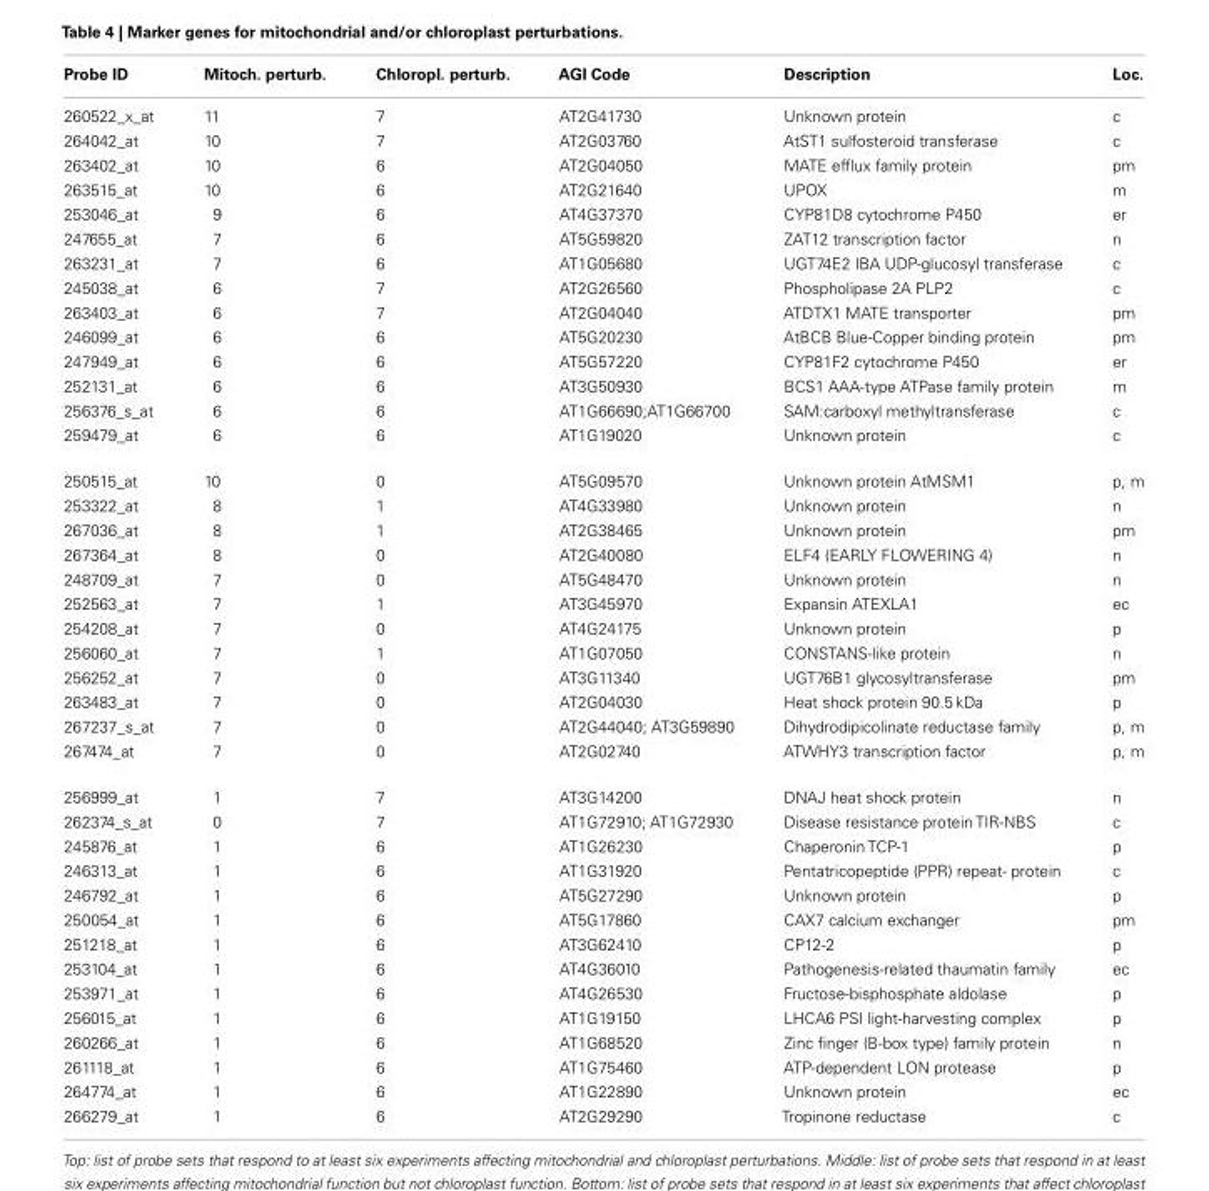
<table><thead><tr><td>Probe ID</td><td>Mitoch. perturb.</td><td>Chloropl. perturb.</td><td>AGI Code</td><td>Description</td><td>Loc.</td></tr></thead><tbody><tr><td>260522_x_at</td><td>11</td><td>7</td><td>AT2G41730</td><td>Unknown protein</td><td>c</td></tr><tr><td>264042_at</td><td>10</td><td>7</td><td>AT2G03760</td><td>AtST1 sulfosteroid transferase</td><td>c</td></tr><tr><td>263402_at</td><td>10</td><td>6</td><td>AT2G04050</td><td>MATE efflux family protein</td><td>pm</td></tr><tr><td>263515_at</td><td>10</td><td>6</td><td>AT2G21640</td><td>UPOX</td><td>m</td></tr><tr><td>253046_at</td><td>9</td><td>6</td><td>AT4G37370</td><td>CYP81D8 cytochrome P450</td><td>er</td></tr><tr><td>247655_at</td><td>7</td><td>6</td><td>AT5G59820</td><td>ZAT12 transcription factor</td><td>n</td></tr><tr><td>263231_at</td><td>7</td><td>6</td><td>AT1G05680</td><td>UGT74E2 IBA UDP-glucosyl transferase</td><td>c</td></tr><tr><td>245038_at</td><td>6</td><td>7</td><td>AT2G26560</td><td>Phospholipase 2A PLP2</td><td>c</td></tr><tr><td>263403_at</td><td>6</td><td>7</td><td>AT2G04040</td><td>ATDTX1 MATE transporter</td><td>pm</td></tr><tr><td>246099_at</td><td>6</td><td>6</td><td>AT5G20230</td><td>AtBCB Blue-Copper binding protein</td><td>pm</td></tr><tr><td>247949_at</td><td>6</td><td>6</td><td>AT5G57220</td><td>CYP81F2 cytochrome P450</td><td>er</td></tr><tr><td>252131_at</td><td>6</td><td>6</td><td>AT3G50930</td><td>BCS1 AAA-type ATPase family protein</td><td>m</td></tr><tr><td>256376_s_at</td><td>6</td><td>6</td><td>AT1G66690;AT1G66700</td><td>SAM:carboxyl methyltransferase</td><td>c</td></tr><tr><td>259479_at</td><td>6</td><td>6</td><td>AT1G19020</td><td>Unknown protein</td><td>c</td></tr><tr><td>250515_at</td><td>10</td><td>0</td><td>AT5G09570</td><td>Unknown protein AtMSM1</td><td>p, m</td></tr><tr><td>253322_at</td><td>8</td><td>1</td><td>AT4G33980</td><td>Unknown protein</td><td>n</td></tr><tr><td>267036_at</td><td>8</td><td>1</td><td>AT2G38465</td><td>Unknown protein</td><td>pm</td></tr><tr><td>267364_at</td><td>8</td><td>0</td><td>AT2G40080</td><td>ELF4 (EARLY FLOWERING 4)</td><td>n</td></tr><tr><td>248709_at</td><td>7</td><td>0</td><td>AT5G48470</td><td>Unknown protein</td><td>n</td></tr><tr><td>252563_at</td><td>7</td><td>1</td><td>AT3G45970</td><td>Expansin ATEXLA1</td><td>ec</td></tr><tr><td>254208_at</td><td>7</td><td>0</td><td>AT4G24175</td><td>Unknown protein</td><td>p</td></tr><tr><td>256060_at</td><td>7</td><td>1</td><td>AT1G07050</td><td>CONSTANS-like protein</td><td>n</td></tr><tr><td>256252_at</td><td>7</td><td>0</td><td>AT3G11340</td><td>UGT76B1 glycosyltransferase</td><td>pm</td></tr><tr><td>263483_at</td><td>7</td><td>0</td><td>AT2G04030</td><td>Heat shock protein 90.5 kDa</td><td>p</td></tr><tr><td>267237_s_at</td><td>7</td><td>0</td><td>AT2G44040; AT3G59890</td><td>Dihydrodipicolinate reductase family</td><td>p, m</td></tr><tr><td>267474_at</td><td>7</td><td>0</td><td>AT2G02740</td><td>ATWHY3 transcription factor</td><td>p, m</td></tr><tr><td>256999_at</td><td>1</td><td>7</td><td>AT3G14200</td><td>DNAJ heat shock protein</td><td>n</td></tr><tr><td>262374_s_at</td><td>0</td><td>7</td><td>AT1G72910; AT1G72930</td><td>Disease resistance protein TIR-NBS</td><td>c</td></tr><tr><td>245876_at</td><td>1</td><td>6</td><td>AT1G26230</td><td>Chaperonin TCP-1</td><td>p</td></tr><tr><td>246313_at</td><td>1</td><td>6</td><td>AT1G31920</td><td>Pentatricopeptide (PPR) repeat- protein</td><td>c</td></tr><tr><td>246792_at</td><td>1</td><td>6</td><td>AT5G27290</td><td>Unknown protein</td><td>p</td></tr><tr><td>250054_at</td><td>1</td><td>6</td><td>AT5G17860</td><td>CAX7 calcium exchanger</td><td>pm</td></tr><tr><td>251218_at</td><td>1</td><td>6</td><td>AT3G62410</td><td>CP12-2</td><td>p</td></tr><tr><td>253104_at</td><td>1</td><td>6</td><td>AT4G36010</td><td>Pathogenesis-related thaumatin family</td><td>ec</td></tr><tr><td>253971_at</td><td>1</td><td>6</td><td>AT4G26530</td><td>Fructose-bisphosphate aldolase</td><td>p</td></tr><tr><td>256015_at</td><td>1</td><td>6</td><td>AT1G19150</td><td>LHCA6 PSI light-harvesting complex</td><td>p</td></tr><tr><td>260266_at</td><td>1</td><td>6</td><td>AT1G68520</td><td>Zinc finger (B-box type) family protein</td><td>n</td></tr><tr><td>261118_at</td><td>1</td><td>6</td><td>AT1G75460</td><td>ATP-dependent LON protease</td><td>p</td></tr><tr><td>264774_at</td><td>1</td><td>6</td><td>AT1G22890</td><td>Unknown protein</td><td>ec</td></tr><tr><td>266279_at</td><td>1</td><td>6</td><td>AT2G29290</td><td>Tropinone reductase</td><td>c</td></tr></tbody></table>